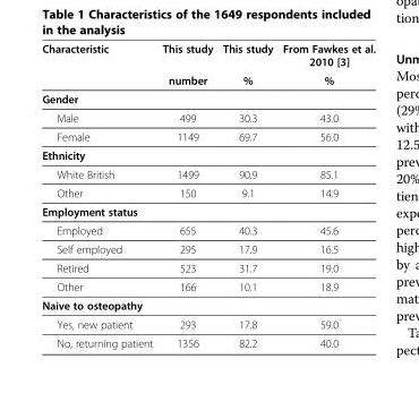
<table><thead><tr><td rowspan="2">Characteristic</td><td rowspan="2">This study number</td><td rowspan="2">This study %</td><td rowspan="2">From Fawkes et al. 2010 [3] %</td></tr><tr></tr></thead><tbody><tr><td colspan="4">Gender</td></tr><tr><td>Male</td><td>499</td><td>30.3</td><td>43.0</td></tr><tr><td>Female</td><td>1149</td><td>69.7</td><td>56.0</td></tr><tr><td colspan="4">Ethnicity</td></tr><tr><td>White British</td><td>1499</td><td>90.9</td><td>85.1</td></tr><tr><td>Other</td><td>150</td><td>9.1</td><td>14.9</td></tr><tr><td colspan="4">Employment status</td></tr><tr><td>Employed</td><td>655</td><td>40.3</td><td>45.6</td></tr><tr><td>Self employed</td><td>295</td><td>17.9</td><td>16.5</td></tr><tr><td>Retired</td><td>523</td><td>31.7</td><td>19.0</td></tr><tr><td>Other</td><td>166</td><td>10.1</td><td>18.9</td></tr><tr><td colspan="4">Naive to osteopathy</td></tr><tr><td>Yes, new patient</td><td>293</td><td>17.8</td><td>59.0</td></tr><tr><td>No, returning patient</td><td>1356</td><td>82.2</td><td>40.0</td></tr></tbody></table>